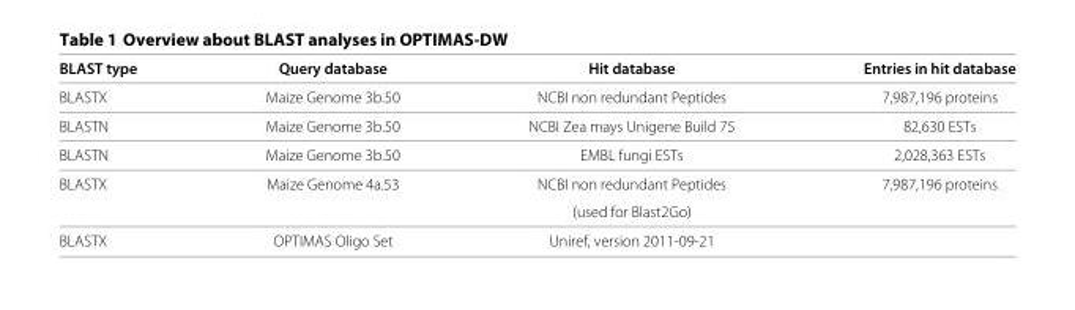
<table><thead><tr><td>BLAST type</td><td>Query database</td><td>Hit database</td><td>Entries in hit database</td></tr></thead><tbody><tr><td>BLASTX</td><td>Maize Genome 3b.50</td><td>NCBI non redundant Peptides</td><td>7,987,196 proteins</td></tr><tr><td>BLASTN</td><td>Maize Genome 3b.50</td><td>NCBI Zea mays Unigene Build 75</td><td>82,630 ESTs</td></tr><tr><td>BLASTN</td><td>Maize Genome 3b.50</td><td>EMBL fungi ESTs</td><td>2,028,363 ESTs</td></tr><tr><td rowspan="2">BLASTX</td><td>Maize Genome 4a.53</td><td>NCBI non redundant Peptides</td><td>7,987,196 proteins</td></tr><tr><td></td><td>(used for Blast2Go)</td><td></td></tr><tr><td>BLASTX</td><td>OPTIMAS Oligo Set</td><td>Uniref, version 2011-09-21</td><td></td></tr></tbody></table>